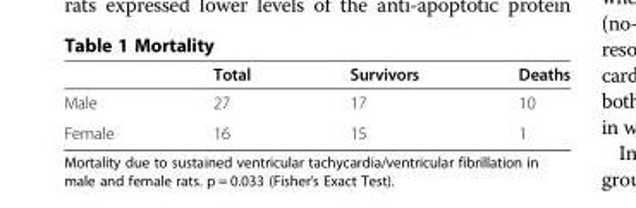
<table><thead><tr><td></td><td>Total</td><td>Survivors</td><td>Deaths</td></tr></thead><tbody><tr><td>Male</td><td>27</td><td>17</td><td>10</td></tr><tr><td>Female</td><td>16</td><td>15</td><td>1</td></tr></tbody></table>